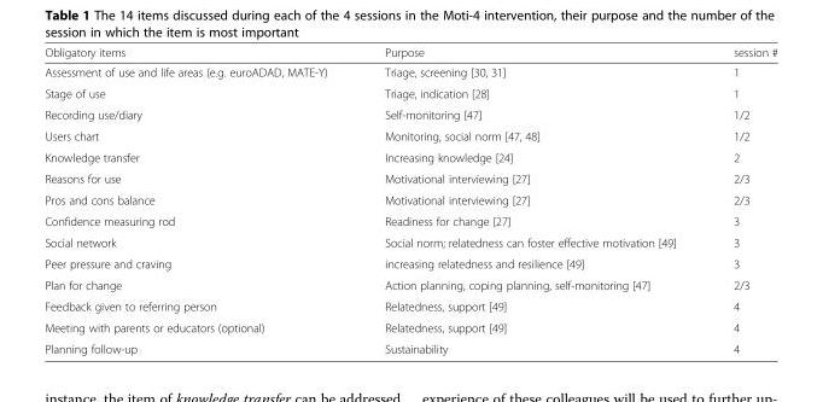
<table><thead><tr><td>Obligatory items</td><td>Purpose</td><td>session #</td></tr></thead><tbody><tr><td>Assessment of use and life areas (e.g. euroADAD, MATE-Y)</td><td>Triage, screening [30, 31]</td><td>1</td></tr><tr><td>Stage of use</td><td>Triage, indication [28]</td><td>1</td></tr><tr><td>Recording use/diary</td><td>Self-monitoring [47]</td><td>1/2</td></tr><tr><td>Users chart</td><td>Monitoring, social norm [47, 48]</td><td>1/2</td></tr><tr><td>Knowledge transfer</td><td>Increasing knowledge [24]</td><td>2</td></tr><tr><td>Reasons for use</td><td>Motivational interviewing [27]</td><td>2/3</td></tr><tr><td>Pros and cons balance</td><td>Motivational interviewing [27]</td><td>2/3</td></tr><tr><td>Confidence measuring rod</td><td>Readiness for change [27]</td><td>3</td></tr><tr><td>Social network</td><td>Social norm; relatedness can foster effective motivation [49]</td><td>3</td></tr><tr><td>Peer pressure and craving</td><td>increasing relatedness and resilience [49]</td><td>3</td></tr><tr><td>Plan for change</td><td>Action planning, coping planning, self-monitoring [47]</td><td>2/3</td></tr><tr><td>Feedback given to referring person</td><td>Relatedness, support [49]</td><td>4</td></tr><tr><td>Meeting with parents or educators (optional)</td><td>Relatedness, support [49]</td><td>4</td></tr><tr><td>Planning follow-up</td><td>Sustainability</td><td>4</td></tr></tbody></table>